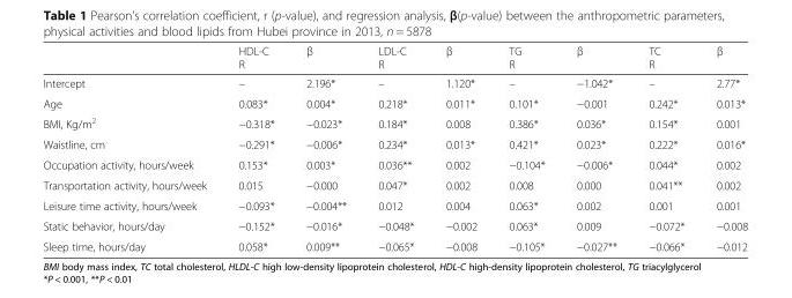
<table><thead><tr><td></td><td>HDL-C R</td><td>β</td><td>LDL-C R</td><td>β</td><td>TG R</td><td>β</td><td>TC R</td><td>β</td></tr></thead><tbody><tr><td>Intercept</td><td>–</td><td>2.196*</td><td>–</td><td>1.120*</td><td>–</td><td>−1.042*</td><td>–</td><td>2.77*</td></tr><tr><td>Age</td><td>0.083*</td><td>0.004*</td><td>0.218*</td><td>0.011*</td><td>0.101*</td><td>−0.001</td><td>0.242*</td><td>0.013*</td></tr><tr><td>BMI, Kg/m<sup>2</sup></td><td>−0.318*</td><td>−0.023*</td><td>0.184*</td><td>0.008</td><td>0.386*</td><td>0.036*</td><td>0.154*</td><td>0.001</td></tr><tr><td>Waistline, cm</td><td>−0.291*</td><td>−0.006*</td><td>0.234*</td><td>0.013*</td><td>0.421*</td><td>0.023*</td><td>0.222*</td><td>0.016*</td></tr><tr><td>Occupation activity, hours/week</td><td>0.153*</td><td>0.003*</td><td>0.036**</td><td>0.002</td><td>−0.104*</td><td>−0.006*</td><td>0.044*</td><td>0.002</td></tr><tr><td>Transportation activity, hours/week</td><td>0.015</td><td>−0.000</td><td>0.047*</td><td>0.002</td><td>0.008</td><td>0.000</td><td>0.041**</td><td>0.002</td></tr><tr><td>Leisure time activity, hours/week</td><td>−0.093*</td><td>−0.004**</td><td>0.012</td><td>0.004</td><td>0.063*</td><td>0.002</td><td>0.001</td><td>0.001</td></tr><tr><td>Static behavior, hours/day</td><td>−0.152*</td><td>−0.016*</td><td>−0.048*</td><td>−0.002</td><td>0.063*</td><td>0.009</td><td>−0.072*</td><td>−0.008</td></tr><tr><td>Sleep time, hours/day</td><td>0.058*</td><td>0.009**</td><td>−0.065*</td><td>−0.008</td><td>−0.105*</td><td>−0.027**</td><td>−0.066*</td><td>−0.012</td></tr></tbody></table>